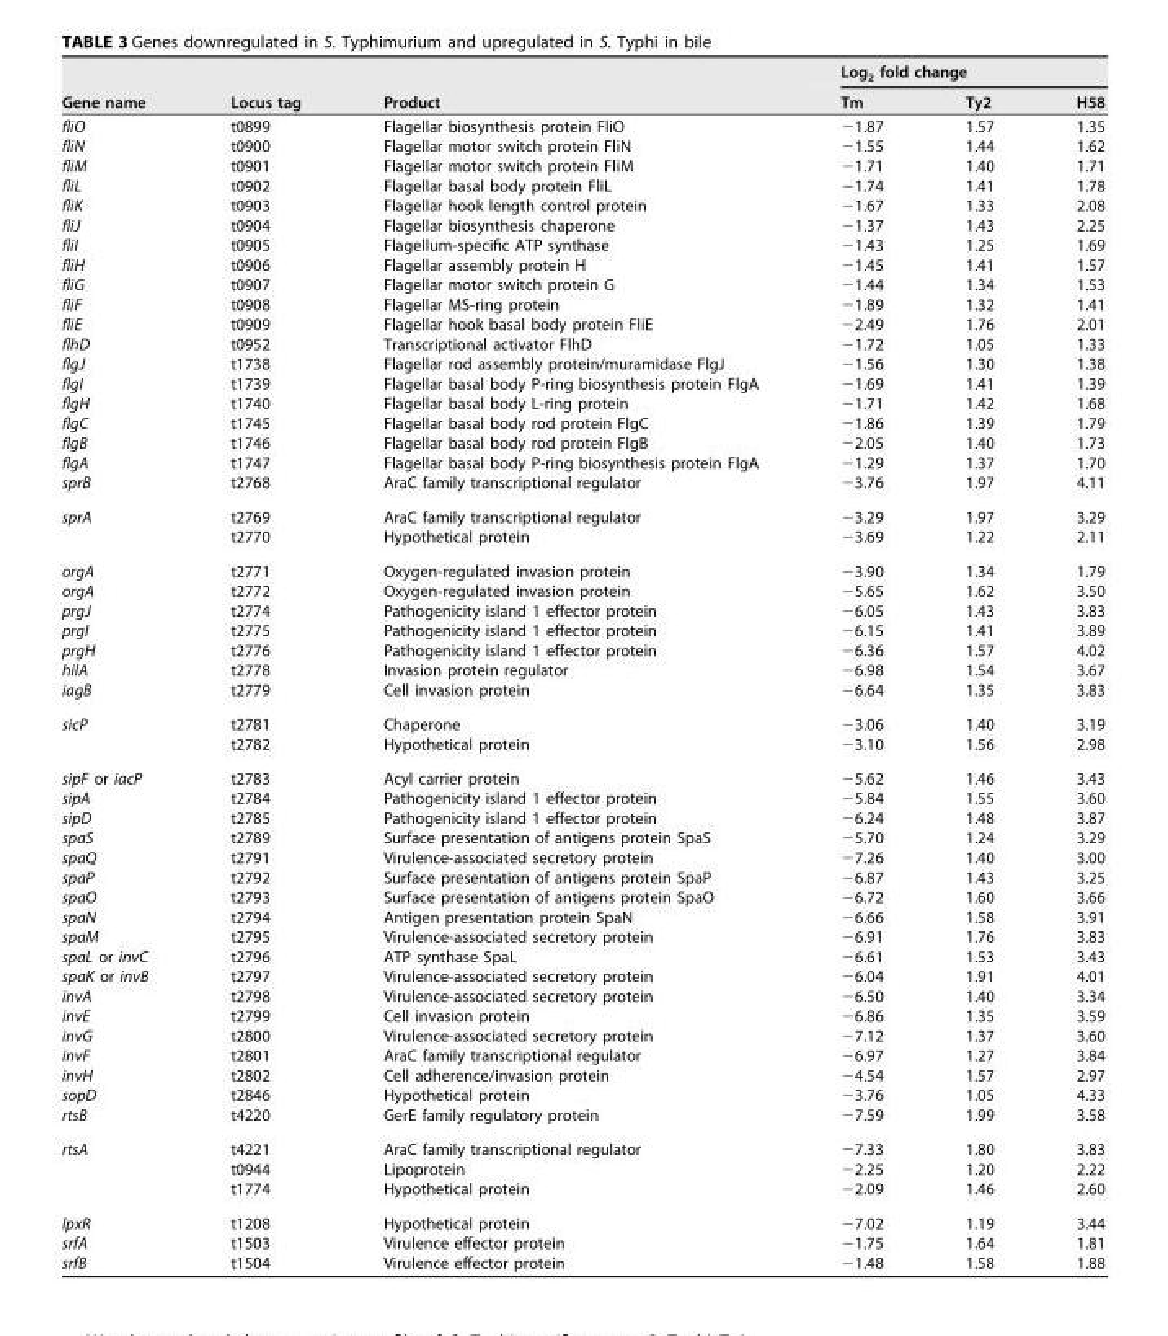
<table><thead><tr><td rowspan="2">Gene name</td><td rowspan="2">Locus tag</td><td rowspan="2">Product</td><td colspan="3">Log<sub>2</sub> fold change</td></tr><tr><td>Tm</td><td>Ty2</td><td>H58</td></tr></thead><tbody><tr><td>fliO</td><td>t0899</td><td>Flagellar biosynthesis protein FliO</td><td>−1.87</td><td>1.57</td><td>1.35</td></tr><tr><td>fliN</td><td>t0900</td><td>Flagellar motor switch protein FliN</td><td>−1.55</td><td>1.44</td><td>1.62</td></tr><tr><td>fliM</td><td>t0901</td><td>Flagellar motor switch protein FliM</td><td>−1.71</td><td>1.40</td><td>1.71</td></tr><tr><td>fliL</td><td>t0902</td><td>Flagellar basal body protein FliL</td><td>−1.74</td><td>1.41</td><td>1.78</td></tr><tr><td>fliK</td><td>t0903</td><td>Flagellar hook length control protein</td><td>−1.67</td><td>1.33</td><td>2.08</td></tr><tr><td>fliJ</td><td>t0904</td><td>Flagellar biosynthesis chaperone</td><td>−1.37</td><td>1.43</td><td>2.25</td></tr><tr><td>fliI</td><td>t0905</td><td>Flagellum-specific ATP synthase</td><td>−1.43</td><td>1.25</td><td>1.69</td></tr><tr><td>fliH</td><td>t0906</td><td>Flagellar assembly protein H</td><td>−1.45</td><td>1.41</td><td>1.57</td></tr><tr><td>fliG</td><td>t0907</td><td>Flagellar motor switch protein G</td><td>−1.44</td><td>1.34</td><td>1.53</td></tr><tr><td>fliF</td><td>t0908</td><td>Flagellar MS-ring protein</td><td>−1.89</td><td>1.32</td><td>1.41</td></tr><tr><td>fliE</td><td>t0909</td><td>Flagellar hook basal body protein FliE</td><td>−2.49</td><td>1.76</td><td>2.01</td></tr><tr><td>flhD</td><td>t0952</td><td>Transcriptional activator FlhD</td><td>−1.72</td><td>1.05</td><td>1.33</td></tr><tr><td>flgJ</td><td>t1738</td><td>Flagellar rod assembly protein/muramidase FlgJ</td><td>−1.56</td><td>1.30</td><td>1.38</td></tr><tr><td>flgI</td><td>t1739</td><td>Flagellar basal body P-ring biosynthesis protein FlgA</td><td>−1.69</td><td>1.41</td><td>1.39</td></tr><tr><td>flgH</td><td>t1740</td><td>Flagellar basal body L-ring protein</td><td>−1.71</td><td>1.42</td><td>1.68</td></tr><tr><td>flgC</td><td>t1745</td><td>Flagellar basal body rod protein FlgC</td><td>−1.86</td><td>1.39</td><td>1.79</td></tr><tr><td>flgB</td><td>t1746</td><td>Flagellar basal body rod protein FlgB</td><td>−2.05</td><td>1.40</td><td>1.73</td></tr><tr><td>flgA</td><td>t1747</td><td>Flagellar basal body P-ring biosynthesis protein FlgA</td><td>−1.29</td><td>1.37</td><td>1.70</td></tr><tr><td>sprB</td><td>t2768</td><td>AraC family transcriptional regulator</td><td>−3.76</td><td>1.97</td><td>4.11</td></tr><tr><td rowspan="2">sprA</td><td>t2769</td><td>AraC family transcriptional regulator</td><td>−3.29</td><td>1.97</td><td>3.29</td></tr><tr><td>t2770</td><td>Hypothetical protein</td><td>−3.69</td><td>1.22</td><td>2.11</td></tr><tr><td>orgA</td><td>t2771</td><td>Oxygen-regulated invasion protein</td><td>−3.90</td><td>1.34</td><td>1.79</td></tr><tr><td>orgA</td><td>t2772</td><td>Oxygen-regulated invasion protein</td><td>−5.65</td><td>1.62</td><td>3.50</td></tr><tr><td>prgJ</td><td>t2774</td><td>Pathogenicity island 1 effector protein</td><td>−6.05</td><td>1.43</td><td>3.83</td></tr><tr><td>prgI</td><td>t2775</td><td>Pathogenicity island 1 effector protein</td><td>−6.15</td><td>1.41</td><td>3.89</td></tr><tr><td>prgH</td><td>t2776</td><td>Pathogenicity island 1 effector protein</td><td>−6.36</td><td>1.57</td><td>4.02</td></tr><tr><td>hilA</td><td>t2778</td><td>Invasion protein regulator</td><td>−6.98</td><td>1.54</td><td>3.67</td></tr><tr><td>iagB</td><td>t2779</td><td>Cell invasion protein</td><td>−6.64</td><td>1.35</td><td>3.83</td></tr><tr><td rowspan="2">sicP</td><td>t2781</td><td>Chaperone</td><td>−3.06</td><td>1.40</td><td>3.19</td></tr><tr><td>t2782</td><td>Hypothetical protein</td><td>−3.10</td><td>1.56</td><td>2.98</td></tr><tr><td>sipF or iacP</td><td>t2783</td><td>Acyl carrier protein</td><td>−5.62</td><td>1.46</td><td>3.43</td></tr><tr><td>sipA</td><td>t2784</td><td>Pathogenicity island 1 effector protein</td><td>−5.84</td><td>1.55</td><td>3.60</td></tr><tr><td>sipD</td><td>t2785</td><td>Pathogenicity island 1 effector protein</td><td>−6.24</td><td>1.48</td><td>3.87</td></tr><tr><td>spaS</td><td>t2789</td><td>Surface presentation of antigens protein SpaS</td><td>−5.70</td><td>1.24</td><td>3.29</td></tr><tr><td>spaQ</td><td>t2791</td><td>Virulence-associated secretory protein</td><td>−7.26</td><td>1.40</td><td>3.00</td></tr><tr><td>spaP</td><td>t2792</td><td>Surface presentation of antigens protein SpaP</td><td>−6.87</td><td>1.43</td><td>3.25</td></tr><tr><td>spaO</td><td>t2793</td><td>Surface presentation of antigens protein SpaO</td><td>−6.72</td><td>1.60</td><td>3.66</td></tr><tr><td>spaN</td><td>t2794</td><td>Antigen presentation protein SpaN</td><td>−6.66</td><td>1.58</td><td>3.91</td></tr><tr><td>spaM</td><td>t2795</td><td>Virulence-associated secretory protein</td><td>−6.91</td><td>1.76</td><td>3.83</td></tr><tr><td>spaL or invC</td><td>t2796</td><td>ATP synthase SpaL</td><td>−6.61</td><td>1.53</td><td>3.43</td></tr><tr><td>spaK or invB</td><td>t2797</td><td>Virulence-associated secretory protein</td><td>−6.04</td><td>1.91</td><td>4.01</td></tr><tr><td>invA</td><td>t2798</td><td>Virulence-associated secretory protein</td><td>−6.50</td><td>1.40</td><td>3.34</td></tr><tr><td>invE</td><td>t2799</td><td>Cell invasion protein</td><td>−6.86</td><td>1.35</td><td>3.59</td></tr><tr><td>invG</td><td>t2800</td><td>Virulence-associated secretory protein</td><td>−7.12</td><td>1.37</td><td>3.60</td></tr><tr><td>invF</td><td>t2801</td><td>AraC family transcriptional regulator</td><td>−6.97</td><td>1.27</td><td>3.84</td></tr><tr><td>invH</td><td>t2802</td><td>Cell adherence/invasion protein</td><td>−4.54</td><td>1.57</td><td>2.97</td></tr><tr><td>sopD</td><td>t2846</td><td>Hypothetical protein</td><td>−3.76</td><td>1.05</td><td>4.33</td></tr><tr><td>rtsB</td><td>t4220</td><td>GerE family regulatory protein</td><td>−7.59</td><td>1.99</td><td>3.58</td></tr><tr><td rowspan="3">rtsA</td><td>t4221</td><td>AraC family transcriptional regulator</td><td>−7.33</td><td>1.80</td><td>3.83</td></tr><tr><td>t0944</td><td>Lipoprotein</td><td>−2.25</td><td>1.20</td><td>2.22</td></tr><tr><td>t1774</td><td>Hypothetical protein</td><td>−2.09</td><td>1.46</td><td>2.60</td></tr><tr><td>lpxR</td><td>t1208</td><td>Hypothetical protein</td><td>−7.02</td><td>1.19</td><td>3.44</td></tr><tr><td>srfA</td><td>t1503</td><td>Virulence effector protein</td><td>−1.75</td><td>1.64</td><td>1.81</td></tr><tr><td>srfB</td><td>t1504</td><td>Virulence effector protein</td><td>−1.48</td><td>1.58</td><td>1.88</td></tr></tbody></table>